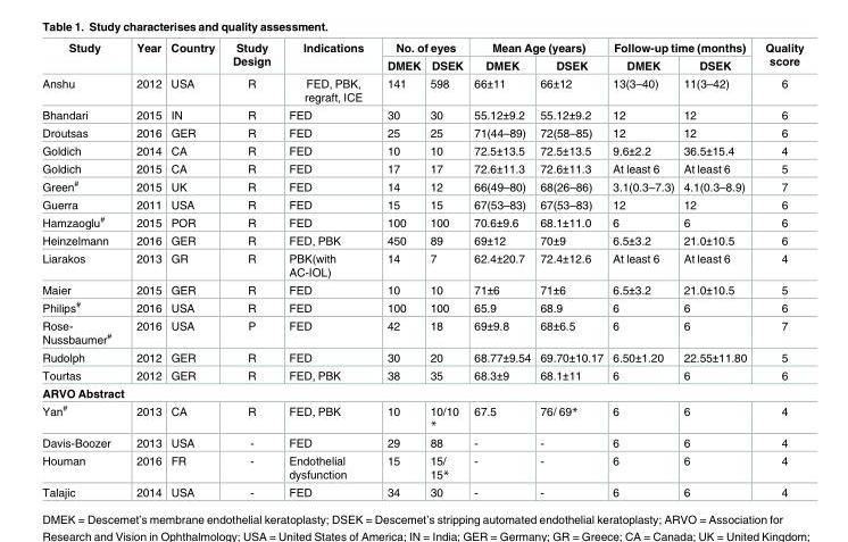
<table><thead><tr><td rowspan="2">Study</td><td rowspan="2">Year</td><td rowspan="2">Country</td><td rowspan="2">Study Design</td><td rowspan="2">Indications</td><td colspan="2">No. of eyes</td><td colspan="2">Mean Age (years)</td><td colspan="2">Follow-up time (months)</td><td rowspan="2">Quality score</td></tr><tr><td>DMEK</td><td>DSEK</td><td>DMEK</td><td>DSEK</td><td>DMEK</td><td>DSEK</td></tr></thead><tbody><tr><td>Anshu</td><td>2012</td><td>USA</td><td>R</td><td>FED, PBK, regraft, ICE</td><td>141</td><td>598</td><td>66±11</td><td>66±12</td><td>13(3–40)</td><td>11(3–42)</td><td>6</td></tr><tr><td>Bhandari</td><td>2015</td><td>IN</td><td>R</td><td>FED</td><td>30</td><td>30</td><td>55.12±9.2</td><td>55.12±9.2</td><td>12</td><td>12</td><td>6</td></tr><tr><td>Droutsas</td><td>2016</td><td>GER</td><td>R</td><td>FED</td><td>25</td><td>25</td><td>71(44–89)</td><td>72(58–85)</td><td>12</td><td>12</td><td>6</td></tr><tr><td>Goldich</td><td>2014</td><td>CA</td><td>R</td><td>FED</td><td>10</td><td>10</td><td>72.5±13.5</td><td>72.5±13.5</td><td>9.6±2.2</td><td>36.5±15.4</td><td>4</td></tr><tr><td>Goldich</td><td>2015</td><td>CA</td><td>R</td><td>FED</td><td>17</td><td>17</td><td>72.6±11.3</td><td>72.6±11.3</td><td>At least 6</td><td>At least 6</td><td>5</td></tr><tr><td>Green<sup>#</sup></td><td>2015</td><td>UK</td><td>R</td><td>FED</td><td>14</td><td>12</td><td>66(49–80)</td><td>68(26–86)</td><td>3.1(0.3–7.3)</td><td>4.1(0.3–8.9)</td><td>7</td></tr><tr><td>Guerra</td><td>2011</td><td>USA</td><td>R</td><td>FED</td><td>15</td><td>15</td><td>67(53–83)</td><td>67(53–83)</td><td>12</td><td>12</td><td>6</td></tr><tr><td>Hamzaoglu<sup>#</sup></td><td>2015</td><td>POR</td><td>R</td><td>FED</td><td>100</td><td>100</td><td>70.6±9.6</td><td>68.1±11.0</td><td>6</td><td>6</td><td>6</td></tr><tr><td>Heinzelmann</td><td>2016</td><td>GER</td><td>R</td><td>FED, PBK</td><td>450</td><td>89</td><td>69±12</td><td>70±9</td><td>6.5±3.2</td><td>21.0±10.5</td><td>6</td></tr><tr><td>Liarakos</td><td>2013</td><td>GR</td><td>R</td><td>PBK(with AC-IOL)</td><td>14</td><td>7</td><td>62.4±20.7</td><td>72.4±12.6</td><td>At least 6</td><td>At least 6</td><td>4</td></tr><tr><td>Maier</td><td>2015</td><td>GER</td><td>R</td><td>FED</td><td>10</td><td>10</td><td>71±6</td><td>71±6</td><td>6.5±3.2</td><td>21.0±10.5</td><td>5</td></tr><tr><td>Philips<sup>#</sup></td><td>2016</td><td>USA</td><td>R</td><td>FED</td><td>100</td><td>100</td><td>65.9</td><td>68.9</td><td>6</td><td>6</td><td>6</td></tr><tr><td>Rose- Nussbaumer<sup>#</sup></td><td>2016</td><td>USA</td><td>P</td><td>FED</td><td>42</td><td>18</td><td>69±9.8</td><td>68±6.5</td><td>6</td><td>6</td><td>7</td></tr><tr><td>Rudolph</td><td>2012</td><td>GER</td><td>R</td><td>FED</td><td>30</td><td>20</td><td>68.77±9.54</td><td>69.70±10.17</td><td>6.50±1.20</td><td>22.55±11.80</td><td>5</td></tr><tr><td>Tourtas</td><td>2012</td><td>GER</td><td>R</td><td>FED, PBK</td><td>38</td><td>35</td><td>68.3±9</td><td>68.1±11</td><td>6</td><td>6</td><td>6</td></tr><tr><td colspan="12">ARVO Abstract</td></tr><tr><td>Yan<sup>#</sup></td><td>2013</td><td>CA</td><td>R</td><td>FED, PBK</td><td>10</td><td>10/10 *</td><td>67.5</td><td>76/ 69*</td><td>6</td><td>6</td><td>4</td></tr><tr><td>Davis-Boozer</td><td>2013</td><td>USA</td><td>-</td><td>FED</td><td>29</td><td>88</td><td>-</td><td>-</td><td>6</td><td>6</td><td>4</td></tr><tr><td>Houman</td><td>2016</td><td>FR</td><td>-</td><td>Endothelial dysfunction</td><td>15</td><td>15/ 15*</td><td>-</td><td>-</td><td>6</td><td>6</td><td>4</td></tr><tr><td>Talajic</td><td>2014</td><td>USA</td><td>-</td><td>FED</td><td>34</td><td>30</td><td>-</td><td>-</td><td>6</td><td>6</td><td>4</td></tr></tbody></table>